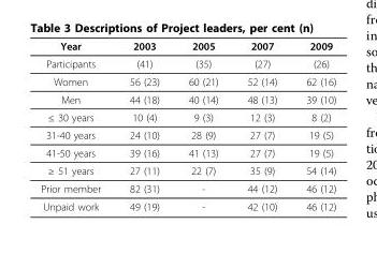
<table><thead><tr><td>Year</td><td>2003</td><td>2005</td><td>2007</td><td>2009</td></tr></thead><tbody><tr><td>Participants</td><td>(41)</td><td>(35)</td><td>(27)</td><td>(26)</td></tr><tr><td>Women</td><td>56 (23)</td><td>60 (21)</td><td>52 (14)</td><td>62 (16)</td></tr><tr><td>Men</td><td>44 (18)</td><td>40 (14)</td><td>48 (13)</td><td>39 (10)</td></tr><tr><td>≤ 30 years</td><td>10 (4)</td><td>9 (3)</td><td>12 (3)</td><td>8 (2)</td></tr><tr><td>31-40 years</td><td>24 (10)</td><td>28 (9)</td><td>27 (7)</td><td>19 (5)</td></tr><tr><td>41-50 years</td><td>39 (16)</td><td>41 (13)</td><td>27 (7)</td><td>19 (5)</td></tr><tr><td>≥ 51 years</td><td>27 (11)</td><td>22 (7)</td><td>35 (9)</td><td>54 (14)</td></tr><tr><td>Prior member</td><td>82 (31)</td><td>-</td><td>44 (12)</td><td>46 (12)</td></tr><tr><td>Unpaid work</td><td>49 (19)</td><td>-</td><td>42 (10)</td><td>46 (12)</td></tr></tbody></table>